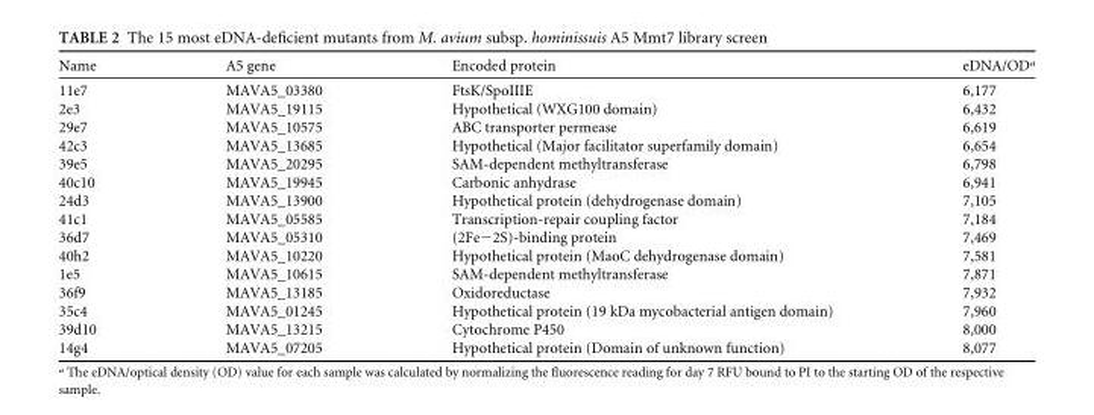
<table><thead><tr><td>Name</td><td>A5 gene</td><td>Encoded protein</td><td>eDNA/OD<sup>a</sup></td></tr></thead><tbody><tr><td>11e7</td><td>MAVA5_03380</td><td>FtsK/SpoIIIE</td><td>6,177</td></tr><tr><td>2e3</td><td>MAVA5_19115</td><td>Hypothetical (WXG100 domain)</td><td>6,432</td></tr><tr><td>29e7</td><td>MAVA5_10575</td><td>ABC transporter permease</td><td>6,619</td></tr><tr><td>42c3</td><td>MAVA5_13685</td><td>Hypothetical (Major facilitator superfamily domain)</td><td>6,654</td></tr><tr><td>39e5</td><td>MAVA5_20295</td><td>SAM-dependent methyltransferase</td><td>6,798</td></tr><tr><td>40c10</td><td>MAVA5_19945</td><td>Carbonic anhydrase</td><td>6,941</td></tr><tr><td>24d3</td><td>MAVA5_13900</td><td>Hypothetical protein (dehydrogenase domain)</td><td>7,105</td></tr><tr><td>41c1</td><td>MAVA5_05585</td><td>Transcription-repair coupling factor</td><td>7,184</td></tr><tr><td>36d7</td><td>MAVA5_05310</td><td>(2Fe−2S)-binding protein</td><td>7,469</td></tr><tr><td>40h2</td><td>MAVA5_10220</td><td>Hypothetical protein (MaoC dehydrogenase domain)</td><td>7,581</td></tr><tr><td>1e5</td><td>MAVA5_10615</td><td>SAM-dependent methyltransferase</td><td>7,871</td></tr><tr><td>36f9</td><td>MAVA5_13185</td><td>Oxidoreductase</td><td>7,932</td></tr><tr><td>35c4</td><td>MAVA5_01245</td><td>Hypothetical protein (19 kDa mycobacterial antigen domain)</td><td>7,960</td></tr><tr><td>39d10</td><td>MAVA5_13215</td><td>Cytochrome P450</td><td>8,000</td></tr><tr><td>14g4</td><td>MAVA5_07205</td><td>Hypothetical protein (Domain of unknown function)</td><td>8,077</td></tr></tbody></table>